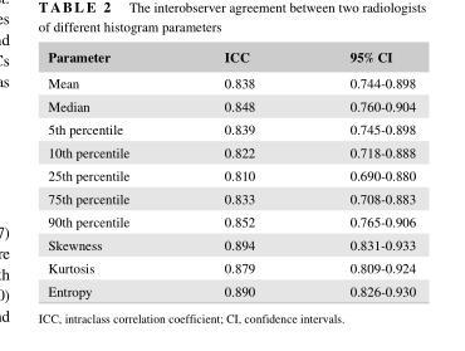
<table><thead><tr><td>Parameter</td><td>ICC</td><td>95% CI</td></tr></thead><tbody><tr><td>Mean</td><td>0.838</td><td>0.744- 0.898</td></tr><tr><td>Median</td><td>0.848</td><td>0.760- 0.904</td></tr><tr><td>5th percentile</td><td>0.839</td><td>0.745- 0.898</td></tr><tr><td>10th percentile</td><td>0.822</td><td>0.718- 0.888</td></tr><tr><td>25th percentile</td><td>0.810</td><td>0.690- 0.880</td></tr><tr><td>75th percentile</td><td>0.833</td><td>0.708- 0.883</td></tr><tr><td>90th percentile</td><td>0.852</td><td>0.765- 0.906</td></tr><tr><td>Skewness</td><td>0.894</td><td>0.831- 0.933</td></tr><tr><td>Kurtosis</td><td>0.879</td><td>0.809- 0.924</td></tr><tr><td>Entropy</td><td>0.890</td><td>0.826- 0.930</td></tr></tbody></table>